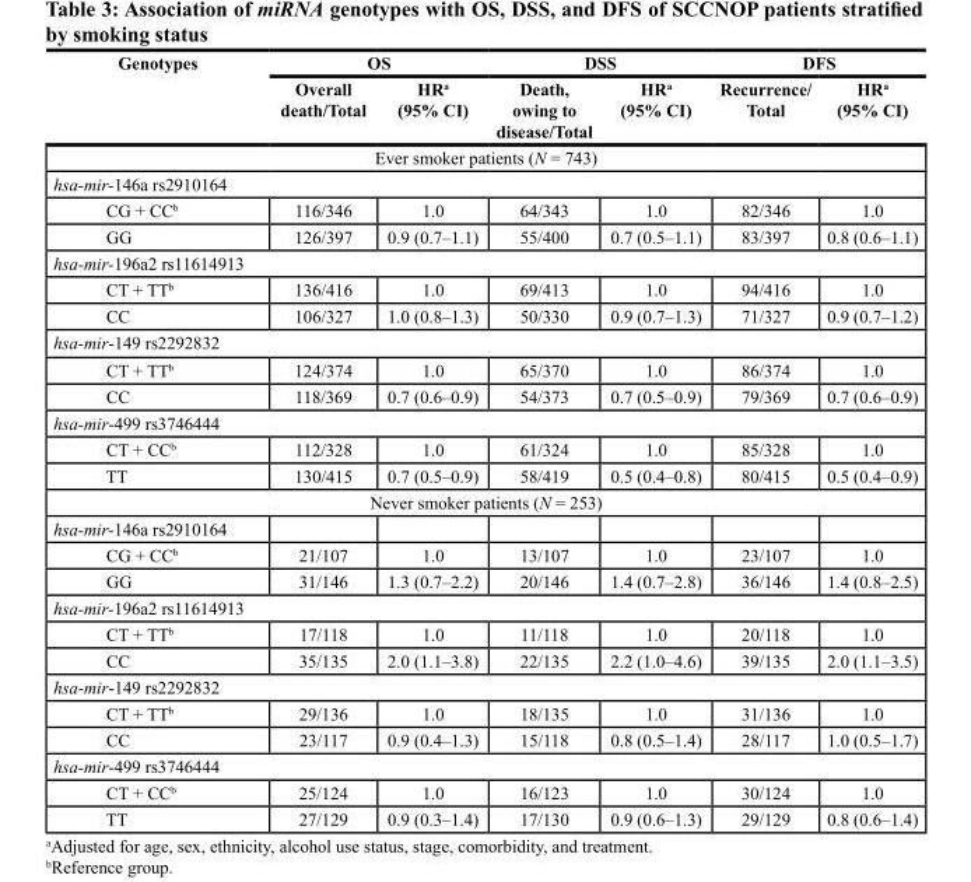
<table><thead><tr><td rowspan="2">Genotypes</td><td colspan="2">OS</td><td colspan="2">DSS</td><td colspan="2">DFS</td></tr><tr><td>Overall death/Total</td><td>HR<sup>a</sup> (95% CI)</td><td>Death, owing to disease/Total</td><td>HR<sup>a</sup> (95% CI)</td><td>Recurrence/ Total</td><td>HR<sup>a</sup> (95% CI)</td></tr></thead><tbody><tr><td colspan="7">Ever smoker patients (N = 743)</td></tr><tr><td colspan="7">hsa-mir-146a rs2910164</td></tr><tr><td>CG + CC<sup>b</sup></td><td>116/346</td><td>1.0</td><td>64/343</td><td>1.0</td><td>82/346</td><td>1.0</td></tr><tr><td>GG</td><td>126/397</td><td>0.9 (0.7–1.1)</td><td>55/400</td><td>0.7 (0.5–1.1)</td><td>83/397</td><td>0.8 (0.6–1.1)</td></tr><tr><td colspan="7">hsa-mir-196a2 rs11614913</td></tr><tr><td>CT + TT<sup>b</sup></td><td>136/416</td><td>1.0</td><td>69/413</td><td>1.0</td><td>94/416</td><td>1.0</td></tr><tr><td>CC</td><td>106/327</td><td>1.0 (0.8–1.3)</td><td>50/330</td><td>0.9 (0.7–1.3)</td><td>71/327</td><td>0.9 (0.7–1.2)</td></tr><tr><td colspan="7">hsa-mir-149 rs2292832</td></tr><tr><td>CT + TT<sup>b</sup></td><td>124/374</td><td>1.0</td><td>65/370</td><td>1.0</td><td>86/374</td><td>1.0</td></tr><tr><td>CC</td><td>118/369</td><td>0.7 (0.6–0.9)</td><td>54/373</td><td>0.7 (0.5–0.9)</td><td>79/369</td><td>0.7 (0.6–0.9)</td></tr><tr><td colspan="7">hsa-mir-499 rs3746444</td></tr><tr><td>CT + CC<sup>b</sup></td><td>112/328</td><td>1.0</td><td>61/324</td><td>1.0</td><td>85/328</td><td>1.0</td></tr><tr><td>TT</td><td>130/415</td><td>0.7 (0.5–0.9)</td><td>58/419</td><td>0.5 (0.4–0.8)</td><td>80/415</td><td>0.5 (0.4–0.9)</td></tr><tr><td colspan="7">Never smoker patients (N = 253)</td></tr><tr><td colspan="7">hsa-mir-146a rs2910164</td></tr><tr><td>CG + CC<sup>b</sup></td><td>21/107</td><td>1.0</td><td>13/107</td><td>1.0</td><td>23/107</td><td>1.0</td></tr><tr><td>GG</td><td>31/146</td><td>1.3 (0.7–2.2)</td><td>20/146</td><td>1.4 (0.7–2.8)</td><td>36/146</td><td>1.4 (0.8–2.5)</td></tr><tr><td colspan="7">hsa-mir-196a2 rs11614913</td></tr><tr><td>CT + TT<sup>b</sup></td><td>17/118</td><td>1.0</td><td>11/118</td><td>1.0</td><td>20/118</td><td>1.0</td></tr><tr><td>CC</td><td>35/135</td><td>2.0 (1.1–3.8)</td><td>22/135</td><td>2.2 (1.0–4.6)</td><td>39/135</td><td>2.0 (1.1–3.5)</td></tr><tr><td colspan="7">hsa-mir-149 rs2292832</td></tr><tr><td>CT + TT<sup>b</sup></td><td>29/136</td><td>1.0</td><td>18/135</td><td>1.0</td><td>31/136</td><td>1.0</td></tr><tr><td>CC</td><td>23/117</td><td>0.9 (0.4–1.3)</td><td>15/118</td><td>0.8 (0.5–1.4)</td><td>28/117</td><td>1.0 (0.5–1.7)</td></tr><tr><td colspan="7">hsa-mir-499 rs3746444</td></tr><tr><td>CT + CC<sup>b</sup></td><td>25/124</td><td>1.0</td><td>16/123</td><td>1.0</td><td>30/124</td><td>1.0</td></tr><tr><td>TT</td><td>27/129</td><td>0.9 (0.3–1.4)</td><td>17/130</td><td>0.9 (0.6–1.3)</td><td>29/129</td><td>0.8 (0.6–1.4)</td></tr></tbody></table>